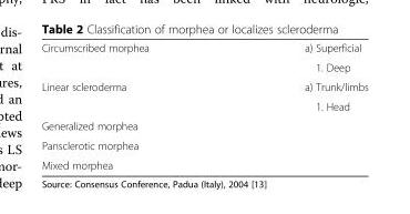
<table><tbody><tr><td rowspan="2">Circumscribed morphea</td><td>a) Superficial</td></tr><tr><td>1. Deep</td></tr><tr><td rowspan="2">Linear scleroderma</td><td>a) Trunk/limbs</td></tr><tr><td>1. Head</td></tr><tr><td colspan="2">Generalized morphea</td></tr><tr><td colspan="2">Pansclerotic morphea</td></tr><tr><td>Mixed morphea</td><td></td></tr></tbody></table>